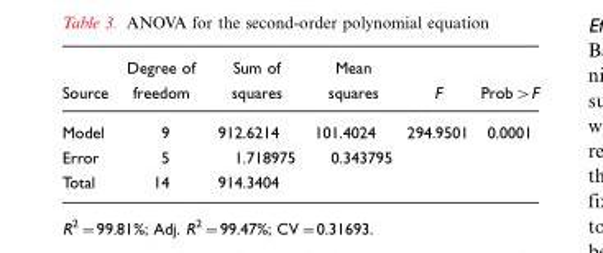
<table><thead><tr><td>Source</td><td>Degree of freedom</td><td>Sum of squares</td><td>Mean squares</td><td>F</td><td>Prob&gt;F</td></tr></thead><tbody><tr><td>Model</td><td>9</td><td>912.6214</td><td>101.4024</td><td>294.9501</td><td>0.0001</td></tr><tr><td>Error</td><td>5</td><td>1.718975</td><td>0.343795</td><td></td><td></td></tr><tr><td>Total</td><td>14</td><td>914.3404</td><td></td><td></td><td></td></tr></tbody></table>